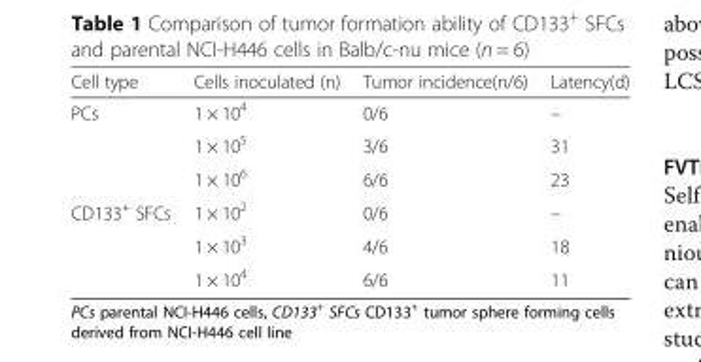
<table><thead><tr><td>Cell type</td><td>Cells inoculated (n)</td><td>Tumor incidence(n/6)</td><td>Latency(d)</td></tr></thead><tbody><tr><td rowspan="3">PCs</td><td>1 × 104</td><td>0/6</td><td>–</td></tr><tr><td>1 × 105</td><td>3/6</td><td>31</td></tr><tr><td>1 × 106</td><td>6/6</td><td>23</td></tr><tr><td rowspan="3">CD133+ SFCs</td><td>1 × 102</td><td>0/6</td><td>–</td></tr><tr><td>1 × 103</td><td>4/6</td><td>18</td></tr><tr><td>1 × 104</td><td>6/6</td><td>11</td></tr></tbody></table>